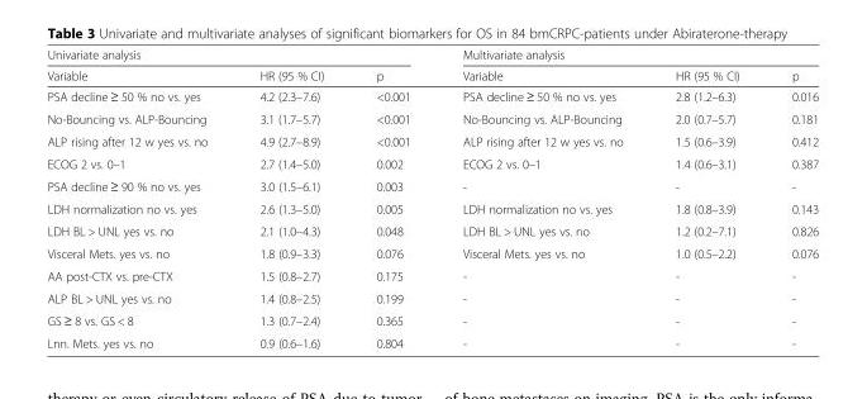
<table><thead><tr><td colspan="3">Univariate analysis</td><td colspan="3">Multivariate analysis</td></tr><tr><td>Variable</td><td>HR (95 % CI)</td><td>p</td><td>Variable</td><td>HR (95 % CI)</td><td>p</td></tr></thead><tbody><tr><td>PSA decline ≥ 50 % no vs. yes</td><td>4.2 (2.3–7.6)</td><td>&lt;0.001</td><td>PSA decline ≥ 50 % no vs. yes</td><td>2.8 (1.2–6.3)</td><td>0.016</td></tr><tr><td>No-Bouncing vs. ALP-Bouncing</td><td>3.1 (1.7–5.7)</td><td>&lt;0.001</td><td>No-Bouncing vs. ALP-Bouncing</td><td>2.0 (0.7–5.7)</td><td>0.181</td></tr><tr><td>ALP rising after 12 w yes vs. no</td><td>4.9 (2.7–8.9)</td><td>&lt;0.001</td><td>ALP rising after 12 w yes vs. no</td><td>1.5 (0.6–3.9)</td><td>0.412</td></tr><tr><td>ECOG 2 vs. 0–1</td><td>2.7 (1.4–5.0)</td><td>0.002</td><td>ECOG 2 vs. 0–1</td><td>1.4 (0.6–3.1)</td><td>0.387</td></tr><tr><td>PSA decline ≥ 90 % no vs. yes</td><td>3.0 (1.5–6.1)</td><td>0.003</td><td>-</td><td>-</td><td>-</td></tr><tr><td>LDH normalization no vs. yes</td><td>2.6 (1.3–5.0)</td><td>0.005</td><td>LDH normalization no vs. yes</td><td>1.8 (0.8–3.9)</td><td>0.143</td></tr><tr><td>LDH BL &gt; UNL yes vs. no</td><td>2.1 (1.0–4.3)</td><td>0.048</td><td>LDH BL &gt; UNL yes vs. no</td><td>1.2 (0.2–7.1)</td><td>0.826</td></tr><tr><td>Visceral Mets. yes vs. no</td><td>1.8 (0.9–3.3)</td><td>0.076</td><td>Visceral Mets. yes vs. no</td><td>1.0 (0.5–2.2)</td><td>0.076</td></tr><tr><td>AA post-CTX vs. pre-CTX</td><td>1.5 (0.8–2.7)</td><td>0.175</td><td>-</td><td>-</td><td>-</td></tr><tr><td>ALP BL &gt; UNL yes vs. no</td><td>1.4 (0.8–2.5)</td><td>0.199</td><td>-</td><td>-</td><td>-</td></tr><tr><td>GS ≥ 8 vs. GS &lt; 8</td><td>1.3 (0.7–2.4)</td><td>0.365</td><td>-</td><td>-</td><td>-</td></tr><tr><td>Lnn. Mets. yes vs. no</td><td>0.9 (0.6–1.6)</td><td>0.804</td><td>-</td><td>-</td><td>-</td></tr></tbody></table>